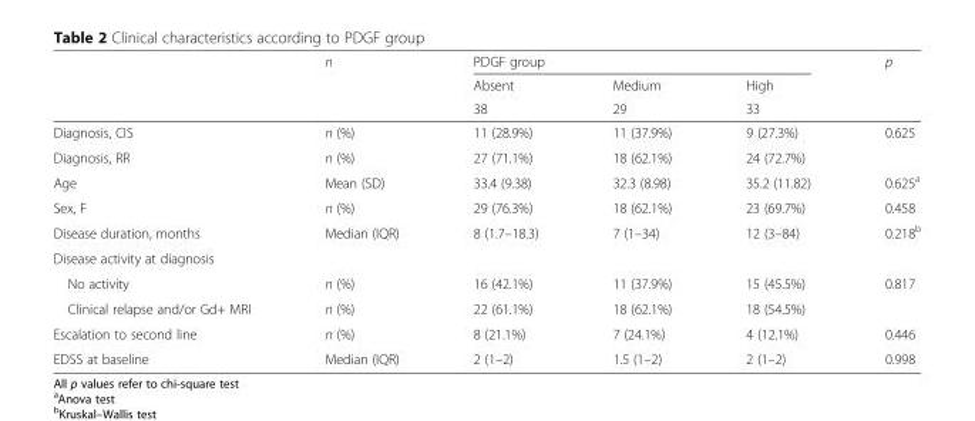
<table><thead><tr><td rowspan="3"></td><td rowspan="3">n</td><td colspan="3">PDGF group</td><td rowspan="3">p</td></tr><tr><td rowspan="2">Absent 38</td><td rowspan="2">Medium 29</td><td rowspan="2">High 33</td></tr><tr></tr></thead><tbody><tr><td>Diagnosis, CIS</td><td>n (%)</td><td>11 (28.9%)</td><td>11 (37.9%)</td><td>9 (27.3%)</td><td rowspan="2">0.625</td></tr><tr><td>Diagnosis, RR</td><td>n (%)</td><td>27 (71.1%)</td><td>18 (62.1%)</td><td>24 (72.7%)</td></tr><tr><td>Age</td><td>Mean (SD)</td><td>33.4 (9.38)</td><td>32.3 (8.98)</td><td>35.2 (11.82)</td><td>0.625<sup>a</sup></td></tr><tr><td>Sex, F</td><td>n (%)</td><td>29 (76.3%)</td><td>18 (62.1%)</td><td>23 (69.7%)</td><td>0.458</td></tr><tr><td>Disease duration, months</td><td>Median (IQR)</td><td>8 (1.7–18.3)</td><td>7 (1–34)</td><td>12 (3–84)</td><td>0.218<sup>b</sup></td></tr><tr><td colspan="6">Disease activity at diagnosis</td></tr><tr><td>No activity</td><td>n (%)</td><td>16 (42.1%)</td><td>11 (37.9%)</td><td>15 (45.5%)</td><td rowspan="2">0.817</td></tr><tr><td>Clinical relapse and/or Gd+ MRI</td><td>n (%)</td><td>22 (61.1%)</td><td>18 (62.1%)</td><td>18 (54.5%)</td></tr><tr><td>Escalation to second line</td><td>n (%)</td><td>8 (21.1%)</td><td>7 (24.1%)</td><td>4 (12.1%)</td><td>0.446</td></tr><tr><td>EDSS at baseline</td><td>Median (IQR)</td><td>2 (1–2)</td><td>1.5 (1–2)</td><td>2 (1–2)</td><td>0.998</td></tr></tbody></table>